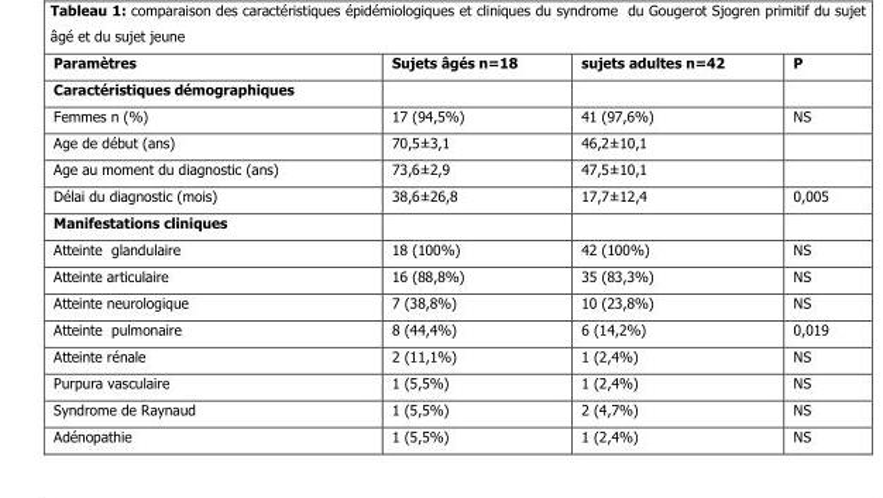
<table><thead><tr><td>Paramètres</td><td>Sujets âgés n=18</td><td>sujets adultes n=42</td><td>P</td></tr></thead><tbody><tr><td colspan="4">Caractéristiques démographiques</td></tr><tr><td>Femmes n (%)</td><td>17 (94,5%)</td><td>41 (97,6%)</td><td>NS</td></tr><tr><td>Age de début (ans)</td><td>70,5±3,1</td><td>46,2±10,1</td><td></td></tr><tr><td>Age au moment du diagnostic (ans)</td><td>73,6±2,9</td><td>47,5±10,1</td><td></td></tr><tr><td>Délai du diagnostic (mois)</td><td>38,6±26,8</td><td>17,7±12,4</td><td>0,005</td></tr><tr><td colspan="4">Manifestations cliniques</td></tr><tr><td>Atteinte glandulaire</td><td>18 (100%)</td><td>42 (100%)</td><td>NS</td></tr><tr><td>Atteinte articulaire</td><td>16 (88,8%)</td><td>35 (83,3%)</td><td>NS</td></tr><tr><td>Atteinte neurologique</td><td>7 (38,8%)</td><td>10 (23,8%)</td><td>NS</td></tr><tr><td>Atteinte pulmonaire</td><td>8 (44,4%)</td><td>6 (14,2%)</td><td>0,019</td></tr><tr><td>Atteinte rénale</td><td>2 (11,1%)</td><td>1 (2,4%)</td><td>NS</td></tr><tr><td>Purpura vasculaire</td><td>1 (5,5%)</td><td>1 (2,4%)</td><td>NS</td></tr><tr><td>Syndrome de Raynaud</td><td>1 (5,5%)</td><td>2 (4,7%)</td><td>NS</td></tr><tr><td>Adénopathie</td><td>1 (5,5%)</td><td>1 (2,4%)</td><td>NS</td></tr></tbody></table>